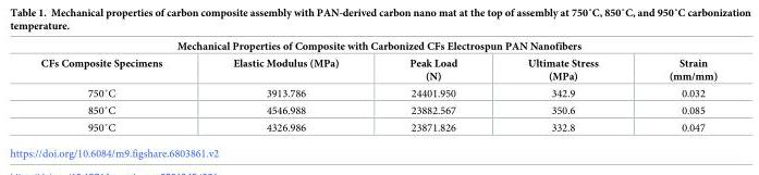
<table><thead><tr><td colspan="5">Mechanical Properties of Composite with Carbonized CFs Electrospun PAN Nanofibers</td></tr><tr><td>CFs Composite Specimens</td><td>Elastic Modulus (MPa)</td><td>Peak Load (N)</td><td>Ultimate Stress (MPa)</td><td>Strain (mm/mm)</td></tr></thead><tbody><tr><td>750˚C</td><td>3913.786</td><td>24401.950</td><td>342.9</td><td>0.032</td></tr><tr><td>850˚C</td><td>4546.988</td><td>23882.567</td><td>350.6</td><td>0.085</td></tr><tr><td>950˚C</td><td>4326.986</td><td>23871.826</td><td>332.8</td><td>0.047</td></tr></tbody></table>